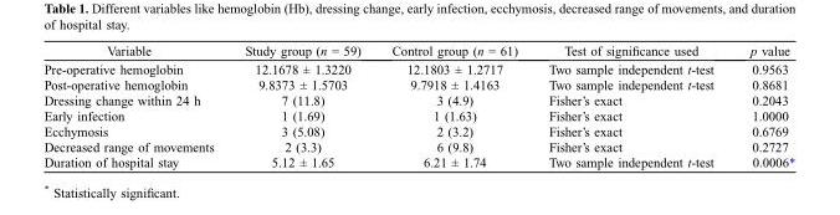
<table><thead><tr><td>Variable</td><td>Study group (n = 59)</td><td>Control group (n = 61)</td><td>Test of significance used</td><td>p value</td></tr></thead><tbody><tr><td>Pre-operative hemoglobin</td><td>12.1678 ± 1.3220</td><td>12.1803 ± 1.2717</td><td>Two sample independent t-test</td><td>0.9563</td></tr><tr><td>Post-operative hemoglobin</td><td>9.8373 ± 1.5703</td><td>9.7918 ± 1.4163</td><td>Two sample independent t-test</td><td>0.8681</td></tr><tr><td>Dressing change within 24 h</td><td>7 (11.8)</td><td>3 (4.9)</td><td>Fisher’s exact</td><td>0.2043</td></tr><tr><td>Early infection</td><td>1 (1.69)</td><td>1 (1.63)</td><td>Fisher’s exact</td><td>1.0000</td></tr><tr><td>Ecchymosis</td><td>3 (5.08)</td><td>2 (3.2)</td><td>Fisher’s exact</td><td>0.6769</td></tr><tr><td>Decreased range of movements</td><td>2 (3.3)</td><td>6 (9.8)</td><td>Fisher’s exact</td><td>0.2727</td></tr><tr><td>Duration of hospital stay</td><td>5.12 ± 1.65</td><td>6.21 ± 1.74</td><td>Two sample independent t-test</td><td>0.0006*</td></tr></tbody></table>